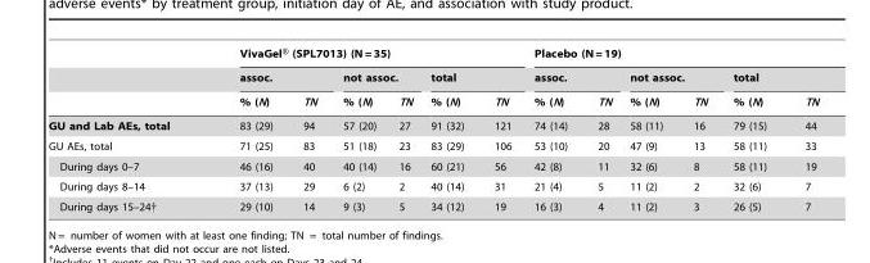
<table><thead><tr><td rowspan="3"></td><td colspan="6">VivaGel® (SPL7013) (N = 35)</td><td colspan="6">Placebo (N = 19)</td></tr><tr><td colspan="2">assoc.</td><td colspan="2">not assoc.</td><td colspan="2">total</td><td colspan="2">assoc.</td><td colspan="2">not assoc.</td><td colspan="2">total</td></tr><tr><td>% (N)</td><td>TN</td><td>% (N)</td><td>TN</td><td>% (N)</td><td>TN</td><td>% (N)</td><td>TN</td><td>% (N)</td><td>TN</td><td>% (N)</td><td>TN</td></tr></thead><tbody><tr><td>GU and Lab AEs, total</td><td>83 (29)</td><td>94</td><td>57 (20)</td><td>27</td><td>91 (32)</td><td>121</td><td>74 (14)</td><td>28</td><td>58 (11)</td><td>16</td><td>79 (15)</td><td>44</td></tr><tr><td>GU AEs, total</td><td>71 (25)</td><td>83</td><td>51 (18)</td><td>23</td><td>83 (29)</td><td>106</td><td>53 (10)</td><td>20</td><td>47 (9)</td><td>13</td><td>58 (11)</td><td>33</td></tr><tr><td>During days 0–7</td><td>46 (16)</td><td>40</td><td>40 (14)</td><td>16</td><td>60 (21)</td><td>56</td><td>42 (8)</td><td>11</td><td>32 (6)</td><td>8</td><td>58 (11)</td><td>19</td></tr><tr><td>During days 8–14</td><td>37 (13)</td><td>29</td><td>6 (2)</td><td>2</td><td>40 (14)</td><td>31</td><td>21 (4)</td><td>5</td><td>11 (2)</td><td>2</td><td>32 (6)</td><td>7</td></tr><tr><td>During days 15–24†</td><td>29 (10)</td><td>14</td><td>9 (3)</td><td>5</td><td>34 (12)</td><td>19</td><td>16 (3)</td><td>4</td><td>11 (2)</td><td>3</td><td>26 (5)</td><td>7</td></tr></tbody></table>